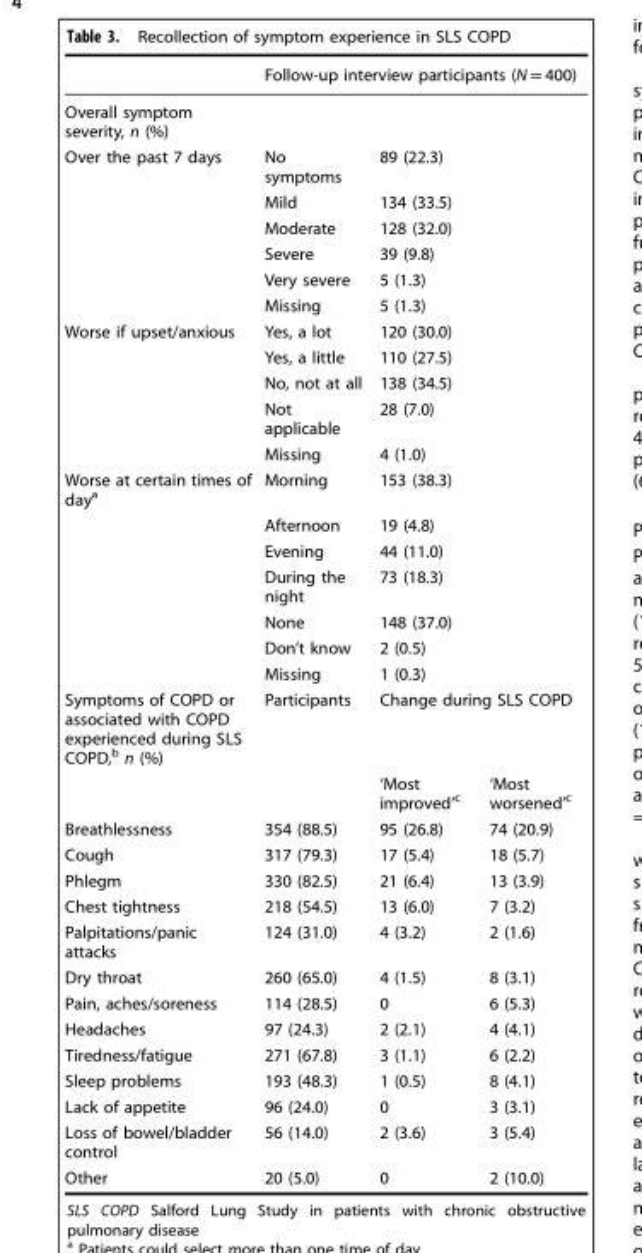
<table><thead><tr><td rowspan="2">Overall symptom severity, n (%)</td><td colspan="3">Follow-up interview participants (N = 400)</td></tr><tr><td></td><td></td><td></td></tr></thead><tbody><tr><td rowspan="6">Over the past 7 days</td><td>No symptoms</td><td>89 (22.3)</td><td></td></tr><tr><td>Mild</td><td>134 (33.5)</td><td></td></tr><tr><td>Moderate</td><td>128 (32.0)</td><td></td></tr><tr><td>Severe</td><td>39 (9.8)</td><td></td></tr><tr><td>Very severe</td><td>5 (1.3)</td><td></td></tr><tr><td>Missing</td><td>5 (1.3)</td><td></td></tr><tr><td rowspan="5">Worse if upset/anxious</td><td>Yes, a lot</td><td>120 (30.0)</td><td></td></tr><tr><td>Yes, a little</td><td>110 (27.5)</td><td></td></tr><tr><td>No, not at all</td><td>138 (34.5)</td><td></td></tr><tr><td>Not applicable</td><td>28 (7.0)</td><td></td></tr><tr><td>Missing</td><td>4 (1.0)</td><td></td></tr><tr><td rowspan="7">Worse at certain times of day<sup>a</sup></td><td>Morning</td><td>153 (38.3)</td><td></td></tr><tr><td>Afternoon</td><td>19 (4.8)</td><td></td></tr><tr><td>Evening</td><td>44 (11.0)</td><td></td></tr><tr><td>During the night</td><td>73 (18.3)</td><td></td></tr><tr><td>None</td><td>148 (37.0)</td><td></td></tr><tr><td>Don’t know</td><td>2 (0.5)</td><td></td></tr><tr><td>Missing</td><td>1 (0.3)</td><td></td></tr><tr><td rowspan="2">Symptoms of COPD or associated with COPD experienced during SLS COPD,<sup>b</sup> n (%)</td><td>Participants</td><td colspan="2">Change during SLS COPD</td></tr><tr><td></td><td>‘Most improved’<sup>c</sup></td><td>‘Most worsened’<sup>c</sup></td></tr><tr><td>Breathlessness</td><td>354 (88.5)</td><td>95 (26.8)</td><td>74 (20.9)</td></tr><tr><td>Cough</td><td>317 (79.3)</td><td>17 (5.4)</td><td>18 (5.7)</td></tr><tr><td>Phlegm</td><td>330 (82.5)</td><td>21 (6.4)</td><td>13 (3.9)</td></tr><tr><td>Chest tightness</td><td>218 (54.5)</td><td>13 (6.0)</td><td>7 (3.2)</td></tr><tr><td>Palpitations/panic attacks</td><td>124 (31.0)</td><td>4 (3.2)</td><td>2 (1.6)</td></tr><tr><td>Dry throat</td><td>260 (65.0)</td><td>4 (1.5)</td><td>8 (3.1)</td></tr><tr><td>Pain, aches/soreness</td><td>114 (28.5)</td><td>0</td><td>6 (5.3)</td></tr><tr><td>Headaches</td><td>97 (24.3)</td><td>2 (2.1)</td><td>4 (4.1)</td></tr><tr><td>Tiredness/fatigue</td><td>271 (67.8)</td><td>3 (1.1)</td><td>6 (2.2)</td></tr><tr><td>Sleep problems</td><td>193 (48.3)</td><td>1 (0.5)</td><td>8 (4.1)</td></tr><tr><td>Lack of appetite</td><td>96 (24.0)</td><td>0</td><td>3 (3.1)</td></tr><tr><td>Loss of bowel/bladder control</td><td>56 (14.0)</td><td>2 (3.6)</td><td>3 (5.4)</td></tr><tr><td>Other</td><td>20 (5.0)</td><td>0</td><td>2 (10.0)</td></tr></tbody></table>